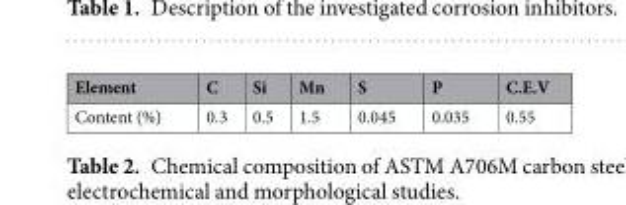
<table><thead><tr><td>Element</td><td>C</td><td>Si</td><td>Mn</td><td>S</td><td>P</td><td>C.E.V</td></tr></thead><tbody><tr><td>Content (%)</td><td>0.3</td><td>0.5</td><td>1.5</td><td>0.045</td><td>0.035</td><td>0.55</td></tr></tbody></table>